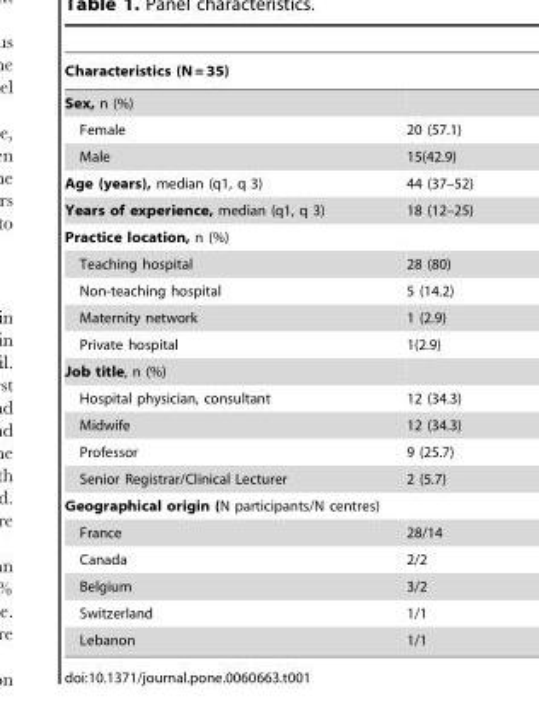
<table><thead><tr><td>Characteristics (N = 35)</td><td></td></tr></thead><tbody><tr><td colspan="2">Sex, n (%)</td></tr><tr><td>Female</td><td>20 (57.1)</td></tr><tr><td>Male</td><td>15(42.9)</td></tr><tr><td>Age (years), median (q1, q 3)</td><td>44 (37–52)</td></tr><tr><td>Years of experience, median (q1, q 3)</td><td>18 (12–25)</td></tr><tr><td colspan="2">Practice location, n (%)</td></tr><tr><td>Teaching hospital</td><td>28 (80)</td></tr><tr><td>Non-teaching hospital</td><td>5 (14.2)</td></tr><tr><td>Maternity network</td><td>1 (2.9)</td></tr><tr><td>Private hospital</td><td>1(2.9)</td></tr><tr><td colspan="2">Job title, n (%)</td></tr><tr><td>Hospital physician, consultant</td><td>12 (34.3)</td></tr><tr><td>Midwife</td><td>12 (34.3)</td></tr><tr><td>Professor</td><td>9 (25.7)</td></tr><tr><td>Senior Registrar/Clinical Lecturer</td><td>2 (5.7)</td></tr><tr><td colspan="2">Geographical origin (N participants/N centres)</td></tr><tr><td>France</td><td>28/14</td></tr><tr><td>Canada</td><td>2/2</td></tr><tr><td>Belgium</td><td>3/2</td></tr><tr><td>Switzerland</td><td>1/1</td></tr><tr><td>Lebanon</td><td>1/1</td></tr></tbody></table>